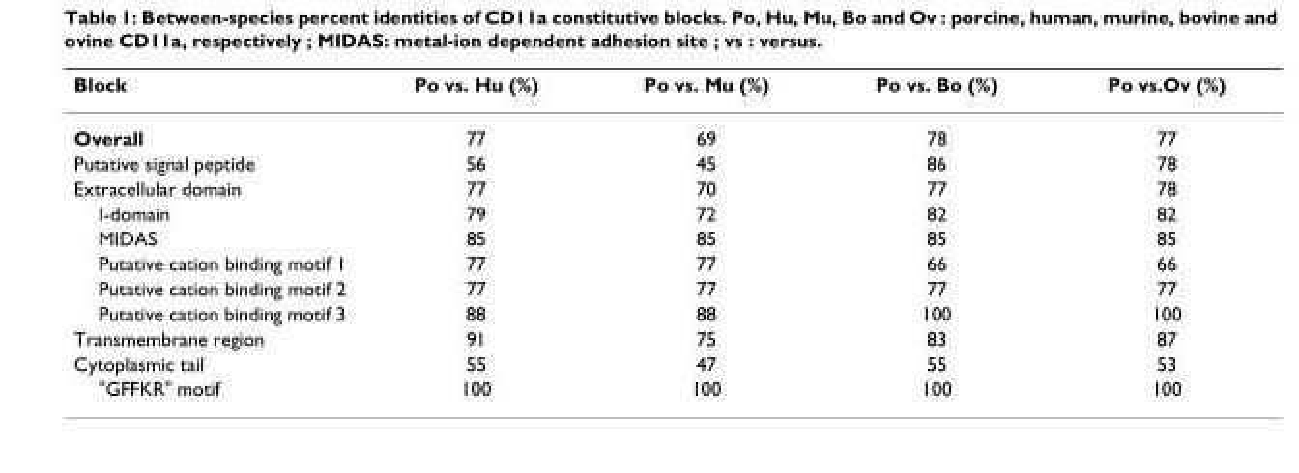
<table><thead><tr><td>Block</td><td>Po vs. Hu (%)</td><td>Po vs. Mu (%)</td><td>Po vs. Bo (%)</td><td>Po vs.Ov (%)</td></tr></thead><tbody><tr><td>Overall</td><td>77</td><td>69</td><td>78</td><td>77</td></tr><tr><td>Putative signal peptide</td><td>56</td><td>45</td><td>86</td><td>78</td></tr><tr><td>Extracellular domain</td><td>77</td><td>70</td><td>77</td><td>78</td></tr><tr><td>I-domain</td><td>79</td><td>72</td><td>82</td><td>82</td></tr><tr><td>MIDAS</td><td>85</td><td>85</td><td>85</td><td>85</td></tr><tr><td>Putative cation binding motif 1</td><td>77</td><td>77</td><td>66</td><td>66</td></tr><tr><td>Putative cation binding motif 2</td><td>77</td><td>77</td><td>77</td><td>77</td></tr><tr><td>Putative cation binding motif 3</td><td>88</td><td>88</td><td>100</td><td>100</td></tr><tr><td>Transmembrane region</td><td>91</td><td>75</td><td>83</td><td>87</td></tr><tr><td>Cytoplasmic tail</td><td>55</td><td>47</td><td>55</td><td>53</td></tr><tr><td>&quot;GFFKR&quot; motif</td><td>100</td><td>100</td><td>100</td><td>100</td></tr></tbody></table>